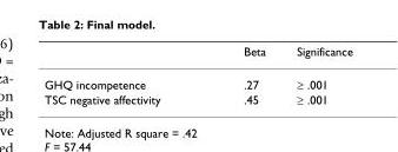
<table><thead><tr><td></td><td>Beta</td><td>Significance</td></tr></thead><tbody><tr><td>GHQ incompetence</td><td>.27</td><td>≥ .001</td></tr><tr><td>TSC negative affectivity</td><td>.45</td><td>≥ .001</td></tr></tbody></table>